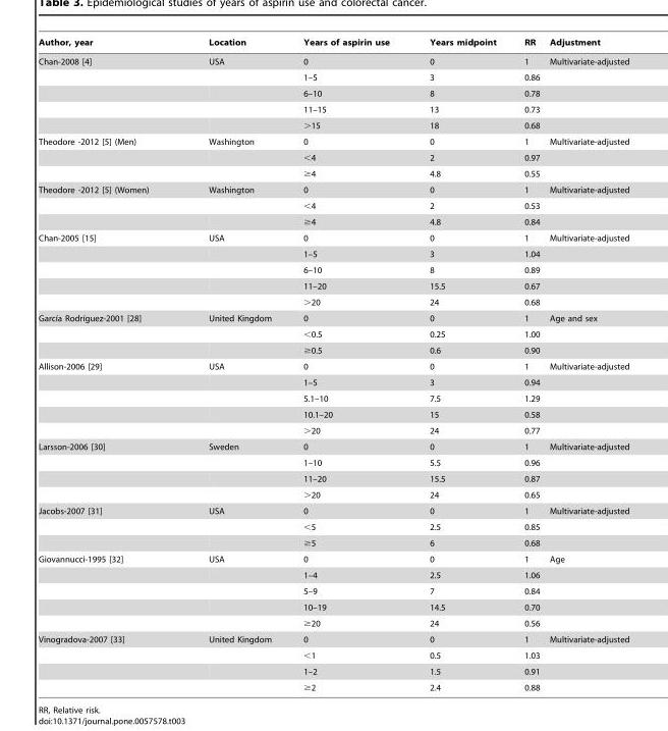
<table><thead><tr><td>Author, year</td><td>Location</td><td>Years of aspirin use</td><td>Years midpoint</td><td>RR</td><td>Adjustment</td></tr></thead><tbody><tr><td rowspan="5">Chan-2008 [4]</td><td>USA</td><td>0</td><td>0</td><td>1</td><td>Multivariate-adjusted</td></tr><tr><td></td><td>1–5</td><td>3</td><td>0.86</td><td></td></tr><tr><td></td><td>6–10</td><td>8</td><td>0.78</td><td></td></tr><tr><td></td><td>11–15</td><td>13</td><td>0.73</td><td></td></tr><tr><td></td><td>&gt;15</td><td>18</td><td>0.68</td><td></td></tr><tr><td rowspan="3">Theodore -2012 [5] (Men)</td><td>Washington</td><td>0</td><td>0</td><td>1</td><td>Multivariate-adjusted</td></tr><tr><td></td><td>&lt;4</td><td>2</td><td>0.97</td><td></td></tr><tr><td></td><td>≥4</td><td>4.8</td><td>0.55</td><td></td></tr><tr><td rowspan="3">Theodore -2012 [5] (Women)</td><td>Washington</td><td>0</td><td>0</td><td>1</td><td>Multivariate-adjusted</td></tr><tr><td></td><td>&lt;4</td><td>2</td><td>0.53</td><td></td></tr><tr><td></td><td>≥4</td><td>4.8</td><td>0.84</td><td></td></tr><tr><td rowspan="5">Chan-2005 [15]</td><td>USA</td><td>0</td><td>0</td><td>1</td><td>Multivariate-adjusted</td></tr><tr><td></td><td>1–5</td><td>3</td><td>1.04</td><td></td></tr><tr><td></td><td>6–10</td><td>8</td><td>0.89</td><td></td></tr><tr><td></td><td>11–20</td><td>15.5</td><td>0.67</td><td></td></tr><tr><td></td><td>&gt;20</td><td>24</td><td>0.68</td><td></td></tr><tr><td rowspan="3">Garcı´a Rodrı´guez-2001 [28]</td><td>United Kingdom</td><td>0</td><td>0</td><td>1</td><td>Age and sex</td></tr><tr><td></td><td>&lt;0.5</td><td>0.25</td><td>1.00</td><td></td></tr><tr><td></td><td>≥0.5</td><td>0.6</td><td>0.90</td><td></td></tr><tr><td rowspan="5">Allison-2006 [29]</td><td>USA</td><td>0</td><td>0</td><td>1</td><td>Multivariate-adjusted</td></tr><tr><td></td><td>1–5</td><td>3</td><td>0.94</td><td></td></tr><tr><td></td><td>5.1–10</td><td>7.5</td><td>1.29</td><td></td></tr><tr><td></td><td>10.1–20</td><td>15</td><td>0.58</td><td></td></tr><tr><td></td><td>&gt;20</td><td>24</td><td>0.77</td><td></td></tr><tr><td rowspan="4">Larsson-2006 [30]</td><td>Sweden</td><td>0</td><td>0</td><td>1</td><td>Multivariate-adjusted</td></tr><tr><td></td><td>1–10</td><td>5.5</td><td>0.96</td><td></td></tr><tr><td></td><td>11–20</td><td>15.5</td><td>0.87</td><td></td></tr><tr><td></td><td>&gt;20</td><td>24</td><td>0.65</td><td></td></tr><tr><td rowspan="3">Jacobs-2007 [31]</td><td>USA</td><td>0</td><td>0</td><td>1</td><td>Multivariate-adjusted</td></tr><tr><td></td><td>&lt;5</td><td>2.5</td><td>0.85</td><td></td></tr><tr><td></td><td>≥5</td><td>6</td><td>0.68</td><td></td></tr><tr><td rowspan="5">Giovannucci-1995 [32]</td><td>USA</td><td>0</td><td>0</td><td>1</td><td>Age</td></tr><tr><td></td><td>1–4</td><td>2.5</td><td>1.06</td><td></td></tr><tr><td></td><td>5–9</td><td>7</td><td>0.84</td><td></td></tr><tr><td></td><td>10–19</td><td>14.5</td><td>0.70</td><td></td></tr><tr><td></td><td>≥20</td><td>24</td><td>0.56</td><td></td></tr><tr><td rowspan="4">Vinogradova-2007 [33]</td><td>United Kingdom</td><td>0</td><td>0</td><td>1</td><td>Multivariate-adjusted</td></tr><tr><td></td><td>&lt;1</td><td>0.5</td><td>1.03</td><td></td></tr><tr><td></td><td>1–2</td><td>1.5</td><td>0.91</td><td></td></tr><tr><td></td><td>≥2</td><td>2.4</td><td>0.88</td><td></td></tr></tbody></table>